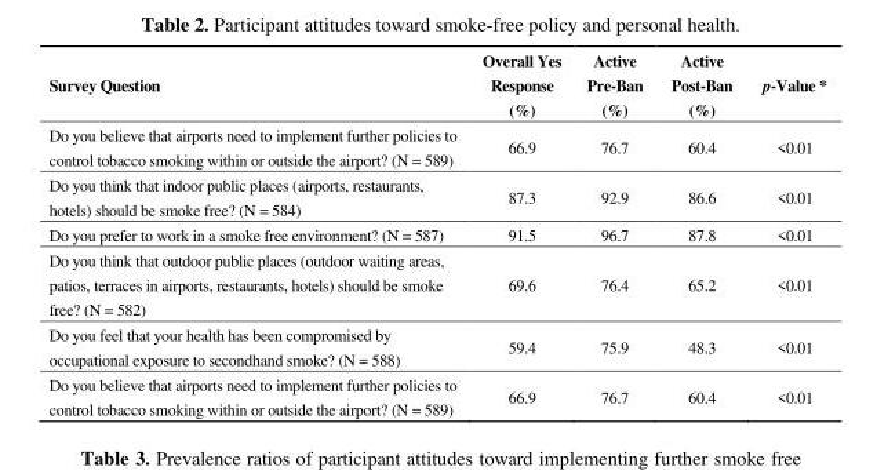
<table><thead><tr><td>Survey Question</td><td>Overall Yes Response (%)</td><td>Active Pre-Ban (%)</td><td>Active Post-Ban (%)</td><td>p-Value *</td></tr></thead><tbody><tr><td>Do you believe that airports need to implement further policies to control tobacco smoking within or outside the airport? (N = 589)</td><td>66.9</td><td>76.7</td><td>60.4</td><td>&lt;0.01</td></tr><tr><td>Do you think that indoor public places (airports, restaurants, hotels) should be smoke free? (N = 584)</td><td>87.3</td><td>92.9</td><td>86.6</td><td>&lt;0.01</td></tr><tr><td>Do you prefer to work in a smoke free environment? (N = 587)</td><td>91.5</td><td>96.7</td><td>87.8</td><td>&lt;0.01</td></tr><tr><td>Do you think that outdoor public places (outdoor waiting areas, patios, terraces in airports, restaurants, hotels) should be smoke free? (N = 582)</td><td>69.6</td><td>76.4</td><td>65.2</td><td>&lt;0.01</td></tr><tr><td>Do you feel that your health has been compromised by occupational exposure to secondhand smoke? (N = 588)</td><td>59.4</td><td>75.9</td><td>48.3</td><td>&lt;0.01</td></tr><tr><td>Do you believe that airports need to implement further policies to control tobacco smoking within or outside the airport? (N = 589)</td><td>66.9</td><td>76.7</td><td>60.4</td><td>&lt;0.01</td></tr></tbody></table>